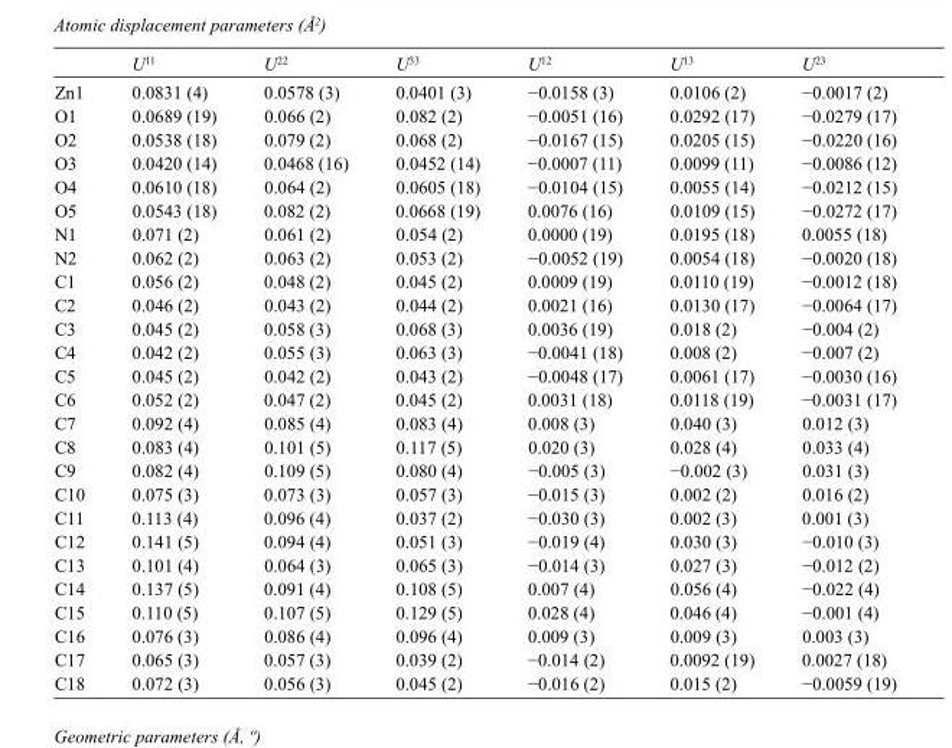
<table><thead><tr><td></td><td>U<sup>11</sup></td><td>U<sup>22</sup></td><td>U<sup>33</sup></td><td>U<sup>12</sup></td><td>U<sup>13</sup></td><td>U<sup>23</sup></td></tr></thead><tbody><tr><td>Zn1</td><td>0.0831 (4)</td><td>0.0578 (3)</td><td>0.0401 (3)</td><td>−0.0158 (3)</td><td>0.0106 (2)</td><td>−0.0017 (2)</td></tr><tr><td>O1</td><td>0.0689 (19)</td><td>0.066 (2)</td><td>0.082 (2)</td><td>−0.0051 (16)</td><td>0.0292 (17)</td><td>−0.0279 (17)</td></tr><tr><td>O2</td><td>0.0538 (18)</td><td>0.079 (2)</td><td>0.068 (2)</td><td>−0.0167 (15)</td><td>0.0205 (15)</td><td>−0.0220 (16)</td></tr><tr><td>O3</td><td>0.0420 (14)</td><td>0.0468 (16)</td><td>0.0452 (14)</td><td>−0.0007 (11)</td><td>0.0099 (11)</td><td>−0.0086 (12)</td></tr><tr><td>O4</td><td>0.0610 (18)</td><td>0.064 (2)</td><td>0.0605 (18)</td><td>−0.0104 (15)</td><td>0.0055 (14)</td><td>−0.0212 (15)</td></tr><tr><td>O5</td><td>0.0543 (18)</td><td>0.082 (2)</td><td>0.0668 (19)</td><td>0.0076 (16)</td><td>0.0109 (15)</td><td>−0.0272 (17)</td></tr><tr><td>N1</td><td>0.071 (2)</td><td>0.061 (2)</td><td>0.054 (2)</td><td>0.0000 (19)</td><td>0.0195 (18)</td><td>0.0055 (18)</td></tr><tr><td>N2</td><td>0.062 (2)</td><td>0.063 (2)</td><td>0.053 (2)</td><td>−0.0052 (19)</td><td>0.0054 (18)</td><td>−0.0020 (18)</td></tr><tr><td>C1</td><td>0.056 (2)</td><td>0.048 (2)</td><td>0.045 (2)</td><td>0.0009 (19)</td><td>0.0110 (19)</td><td>−0.0012 (18)</td></tr><tr><td>C2</td><td>0.046 (2)</td><td>0.043 (2)</td><td>0.044 (2)</td><td>0.0021 (16)</td><td>0.0130 (17)</td><td>−0.0064 (17)</td></tr><tr><td>C3</td><td>0.045 (2)</td><td>0.058 (3)</td><td>0.068 (3)</td><td>0.0036 (19)</td><td>0.018 (2)</td><td>−0.004 (2)</td></tr><tr><td>C4</td><td>0.042 (2)</td><td>0.055 (3)</td><td>0.063 (3)</td><td>−0.0041 (18)</td><td>0.008 (2)</td><td>−0.007 (2)</td></tr><tr><td>C5</td><td>0.045 (2)</td><td>0.042 (2)</td><td>0.043 (2)</td><td>−0.0048 (17)</td><td>0.0061 (17)</td><td>−0.0030 (16)</td></tr><tr><td>C6</td><td>0.052 (2)</td><td>0.047 (2)</td><td>0.045 (2)</td><td>0.0031 (18)</td><td>0.0118 (19)</td><td>−0.0031 (17)</td></tr><tr><td>C7</td><td>0.092 (4)</td><td>0.085 (4)</td><td>0.083 (4)</td><td>0.008 (3)</td><td>0.040 (3)</td><td>0.012 (3)</td></tr><tr><td>C8</td><td>0.083 (4)</td><td>0.101 (5)</td><td>0.117 (5)</td><td>0.020 (3)</td><td>0.028 (4)</td><td>0.033 (4)</td></tr><tr><td>C9</td><td>0.082 (4)</td><td>0.109 (5)</td><td>0.080 (4)</td><td>−0.005 (3)</td><td>−0.002 (3)</td><td>0.031 (3)</td></tr><tr><td>C10</td><td>0.075 (3)</td><td>0.073 (3)</td><td>0.057 (3)</td><td>−0.015 (3)</td><td>0.002 (2)</td><td>0.016 (2)</td></tr><tr><td>C11</td><td>0.113 (4)</td><td>0.096 (4)</td><td>0.037 (2)</td><td>−0.030 (3)</td><td>0.002 (3)</td><td>0.001 (3)</td></tr><tr><td>C12</td><td>0.141 (5)</td><td>0.094 (4)</td><td>0.051 (3)</td><td>−0.019 (4)</td><td>0.030 (3)</td><td>−0.010 (3)</td></tr><tr><td>C13</td><td>0.101 (4)</td><td>0.064 (3)</td><td>0.065 (3)</td><td>−0.014 (3)</td><td>0.027 (3)</td><td>−0.012 (2)</td></tr><tr><td>C14</td><td>0.137 (5)</td><td>0.091 (4)</td><td>0.108 (5)</td><td>0.007 (4)</td><td>0.056 (4)</td><td>−0.022 (4)</td></tr><tr><td>C15</td><td>0.110 (5)</td><td>0.107 (5)</td><td>0.129 (5)</td><td>0.028 (4)</td><td>0.046 (4)</td><td>−0.001 (4)</td></tr><tr><td>C16</td><td>0.076 (3)</td><td>0.086 (4)</td><td>0.096 (4)</td><td>0.009 (3)</td><td>0.009 (3)</td><td>0.003 (3)</td></tr><tr><td>C17</td><td>0.065 (3)</td><td>0.057 (3)</td><td>0.039 (2)</td><td>−0.014 (2)</td><td>0.0092 (19)</td><td>0.0027 (18)</td></tr><tr><td>C18</td><td>0.072 (3)</td><td>0.056 (3)</td><td>0.045 (2)</td><td>−0.016 (2)</td><td>0.015 (2)</td><td>−0.0059 (19)</td></tr></tbody></table>